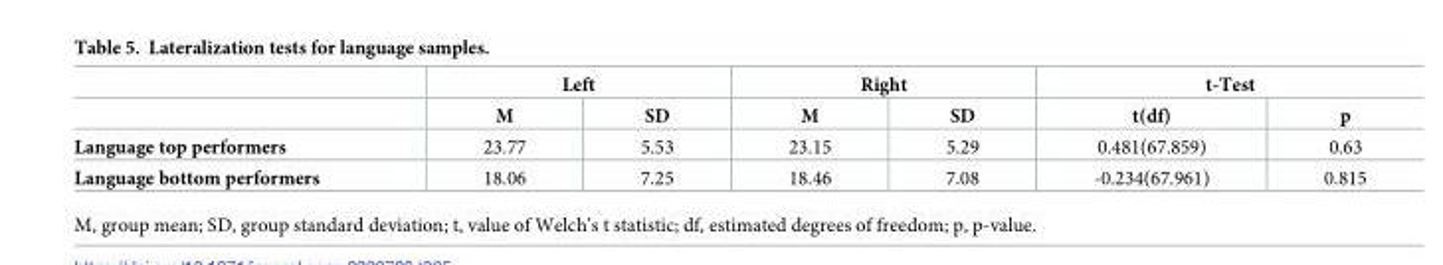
<table><thead><tr><td rowspan="2"></td><td colspan="2">Left</td><td colspan="2">Right</td><td colspan="2">t-Test</td></tr><tr><td>M</td><td>SD</td><td>M</td><td>SD</td><td>t(df)</td><td>p</td></tr></thead><tbody><tr><td>Language top performers</td><td>23.77</td><td>5.53</td><td>23.15</td><td>5.29</td><td>0.481(67.859)</td><td>0.63</td></tr><tr><td>Language bottom performers</td><td>18.06</td><td>7.25</td><td>18.46</td><td>7.08</td><td>-0.234(67.961)</td><td>0.815</td></tr></tbody></table>